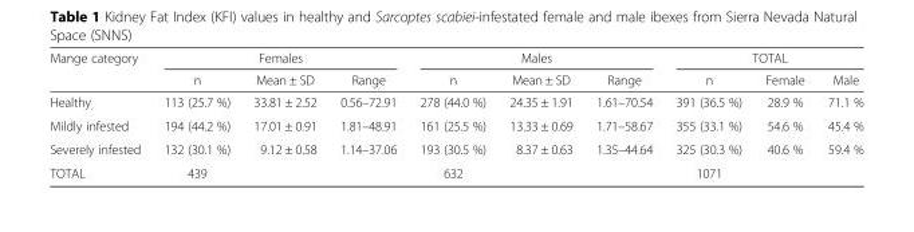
<table><thead><tr><td rowspan="2">Mange category</td><td colspan="3">Females</td><td colspan="3">Males</td><td colspan="3">TOTAL</td></tr><tr><td>n</td><td>Mean ± SD</td><td>Range</td><td>n</td><td>Mean ± SD</td><td>Range</td><td>n</td><td>Female</td><td>Male</td></tr></thead><tbody><tr><td>Healthy</td><td>113 (25.7 %)</td><td>33.81 ± 2.52</td><td>0.56–72.91</td><td>278 (44.0 %)</td><td>24.35 ± 1.91</td><td>1.61–70.54</td><td>391 (36.5 %)</td><td>28.9 %</td><td>71.1 %</td></tr><tr><td>Mildly infested</td><td>194 (44.2 %)</td><td>17.01 ± 0.91</td><td>1.81–48.91</td><td>161 (25.5 %)</td><td>13.33 ± 0.69</td><td>1.71–58.67</td><td>355 (33.1 %)</td><td>54.6 %</td><td>45.4 %</td></tr><tr><td>Severely infested</td><td>132 (30.1 %)</td><td>9.12 ± 0.58</td><td>1.14–37.06</td><td>193 (30.5 %)</td><td>8.37 ± 0.63</td><td>1.35–44.64</td><td>325 (30.3 %)</td><td>40.6 %</td><td>59.4 %</td></tr><tr><td>TOTAL</td><td>439</td><td></td><td></td><td>632</td><td></td><td></td><td>1071</td><td></td><td></td></tr></tbody></table>